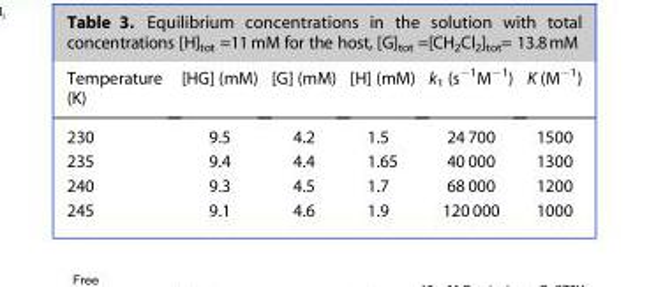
<table><thead><tr><td>Temperature (K)</td><td>[HG] (mM)</td><td>[G] (mM)</td><td>[H] (mM)</td><td>k<sub>1</sub> (s<sup>−1</sup>M<sup>−1</sup>)</td><td>K (M<sup>−1</sup>)</td></tr></thead><tbody><tr><td>230</td><td>9.5</td><td>4.2</td><td>1.5</td><td>24 700</td><td>1500</td></tr><tr><td>235</td><td>9.4</td><td>4.4</td><td>1.65</td><td>40 000</td><td>1300</td></tr><tr><td>240</td><td>9.3</td><td>4.5</td><td>1.7</td><td>68 000</td><td>1200</td></tr><tr><td>245</td><td>9.1</td><td>4.6</td><td>1.9</td><td>120 000</td><td>1000</td></tr></tbody></table>